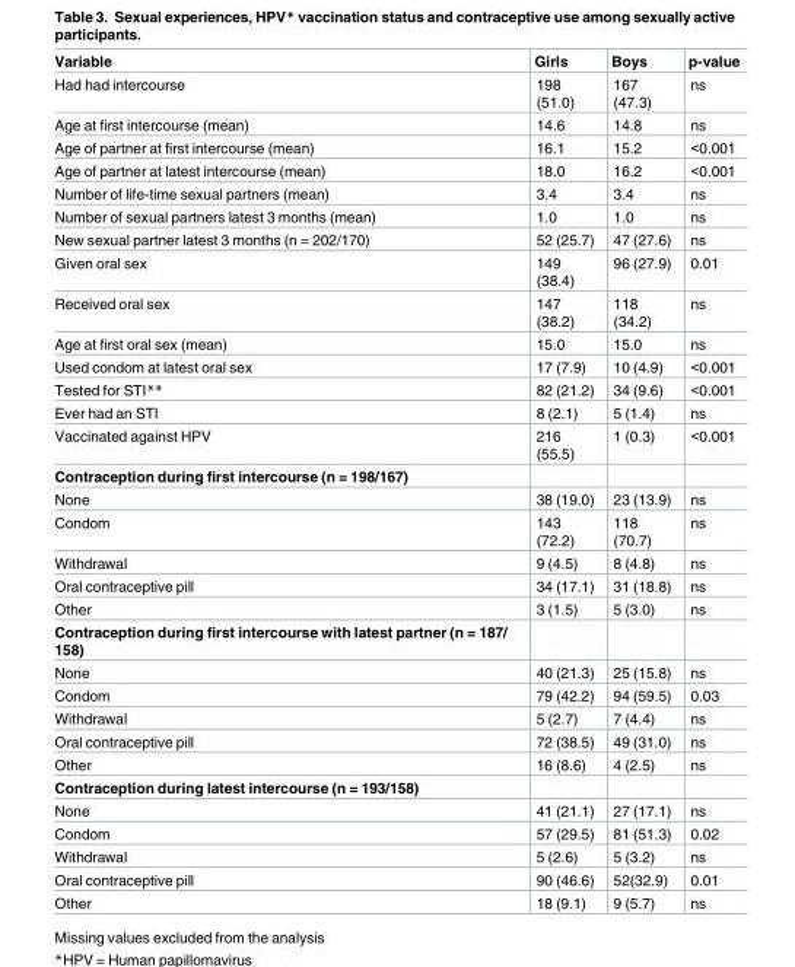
<table><thead><tr><td>Variable</td><td>Girls</td><td>Boys</td><td>p-value</td></tr></thead><tbody><tr><td>Had had intercourse</td><td>198 (51.0)</td><td>167 (47.3)</td><td>ns</td></tr><tr><td>Age at first intercourse (mean)</td><td>14.6</td><td>14.8</td><td>ns</td></tr><tr><td>Age of partner at first intercourse (mean)</td><td>16.1</td><td>15.2</td><td>&lt;0.001</td></tr><tr><td>Age of partner at latest intercourse (mean)</td><td>18.0</td><td>16.2</td><td>&lt;0.001</td></tr><tr><td>Number of life-time sexual partners (mean)</td><td>3.4</td><td>3.4</td><td>ns</td></tr><tr><td>Number of sexual partners latest 3 months (mean)</td><td>1.0</td><td>1.0</td><td>ns</td></tr><tr><td>New sexual partner latest 3 months (n = 202/170)</td><td>52 (25.7)</td><td>47 (27.6)</td><td>ns</td></tr><tr><td>Given oral sex</td><td>149 (38.4)</td><td>96 (27.9)</td><td>0.01</td></tr><tr><td>Received oral sex</td><td>147 (38.2)</td><td>118 (34.2)</td><td>ns</td></tr><tr><td>Age at first oral sex (mean)</td><td>15.0</td><td>15.0</td><td>ns</td></tr><tr><td>Used condom at latest oral sex</td><td>17 (7.9)</td><td>10 (4.9)</td><td>&lt;0.001</td></tr><tr><td>Tested for STI**</td><td>82 (21.2)</td><td>34 (9.6)</td><td>&lt;0.001</td></tr><tr><td>Ever had an STI</td><td>8 (2.1)</td><td>5 (1.4)</td><td>ns</td></tr><tr><td>Vaccinated against HPV</td><td>216 (55.5)</td><td>1 (0.3)</td><td>&lt;0.001</td></tr><tr><td colspan="4">Contraception during first intercourse (n = 198/167)</td></tr><tr><td>None</td><td>38 (19.0)</td><td>23 (13.9)</td><td>ns</td></tr><tr><td>Condom</td><td>143 (72.2)</td><td>118 (70.7)</td><td>ns</td></tr><tr><td>Withdrawal</td><td>9 (4.5)</td><td>8 (4.8)</td><td>ns</td></tr><tr><td>Oral contraceptive pill</td><td>34 (17.1)</td><td>31 (18.8)</td><td>ns</td></tr><tr><td>Other</td><td>3 (1.5)</td><td>5 (3.0)</td><td>ns</td></tr><tr><td colspan="4">Contraception during first intercourse with latest partner (n = 187/ 158)</td></tr><tr><td>None</td><td>40 (21.3)</td><td>25 (15.8)</td><td>ns</td></tr><tr><td>Condom</td><td>79 (42.2)</td><td>94 (59.5)</td><td>0.03</td></tr><tr><td>Withdrawal</td><td>5 (2.7)</td><td>7 (4.4)</td><td>ns</td></tr><tr><td>Oral contraceptive pill</td><td>72 (38.5)</td><td>49 (31.0)</td><td>ns</td></tr><tr><td>Other</td><td>16 (8.6)</td><td>4 (2.5)</td><td>ns</td></tr><tr><td colspan="4">Contraception during latest intercourse (n = 193/158)</td></tr><tr><td>None</td><td>41 (21.1)</td><td>27 (17.1)</td><td>ns</td></tr><tr><td>Condom</td><td>57 (29.5)</td><td>81 (51.3)</td><td>0.02</td></tr><tr><td>Withdrawal</td><td>5 (2.6)</td><td>5 (3.2)</td><td>ns</td></tr><tr><td>Oral contraceptive pill</td><td>90 (46.6)</td><td>52(32.9)</td><td>0.01</td></tr><tr><td>Other</td><td>18 (9.1)</td><td>9 (5.7)</td><td>ns</td></tr></tbody></table>